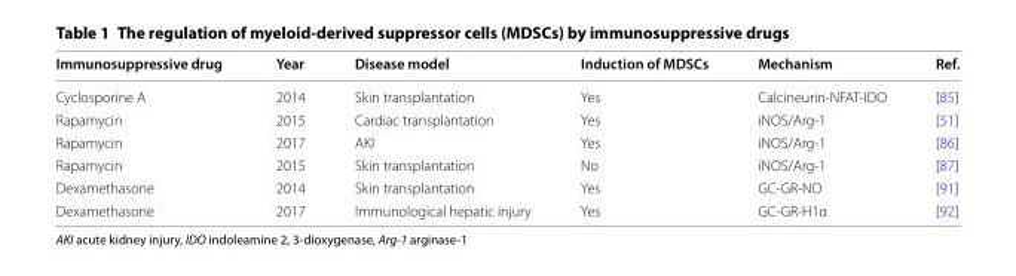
<table><thead><tr><td>Immunosuppressive drug</td><td>Year</td><td>Disease model</td><td>Induction of MDSCs</td><td>Mechanism</td><td>Ref.</td></tr></thead><tbody><tr><td>Cyclosporine A</td><td>2014</td><td>Skin transplantation</td><td>Yes</td><td>Calcineurin-NFAT-IDO</td><td>[85]</td></tr><tr><td>Rapamycin</td><td>2015</td><td>Cardiac transplantation</td><td>Yes</td><td>iNOS/Arg-1</td><td>[51]</td></tr><tr><td>Rapamycin</td><td>2017</td><td>AKI</td><td>Yes</td><td>iNOS/Arg-1</td><td>[86]</td></tr><tr><td>Rapamycin</td><td>2015</td><td>Skin transplantation</td><td>No</td><td>iNOS/Arg-1</td><td>[87]</td></tr><tr><td>Dexamethasone</td><td>2014</td><td>Skin transplantation</td><td>Yes</td><td>GC-GR-NO</td><td>[91]</td></tr><tr><td>Dexamethasone</td><td>2017</td><td>Immunological hepatic injury</td><td>Yes</td><td>GC-GR-H1α</td><td>[92]</td></tr></tbody></table>